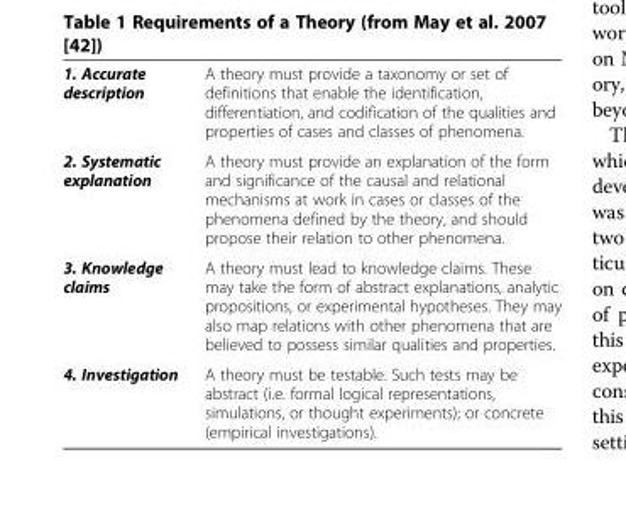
<table><tbody><tr><td>1. Accurate description</td><td>A theory must provide a taxonomy or set of definitions that enable the identification, differentiation, and codification of the qualities and properties of cases and classes of phenomena.</td></tr><tr><td>2. Systematic explanation</td><td>A theory must provide an explanation of the form and significance of the causal and relational mechanisms at work in cases or classes of the phenomena defined by the theory, and should propose their relation to other phenomena.</td></tr><tr><td>3. Knowledge claims</td><td>A theory must lead to knowledge claims. These may take the form of abstract explanations, analytic propositions, or experimental hypotheses. They may also map relations with other phenomena that are believed to possess similar qualities and properties.</td></tr><tr><td>4. Investigation</td><td>A theory must be testable. Such tests may be abstract (i.e. formal logical representations, simulations, or thought experiments); or concrete (empirical investigations).</td></tr></tbody></table>